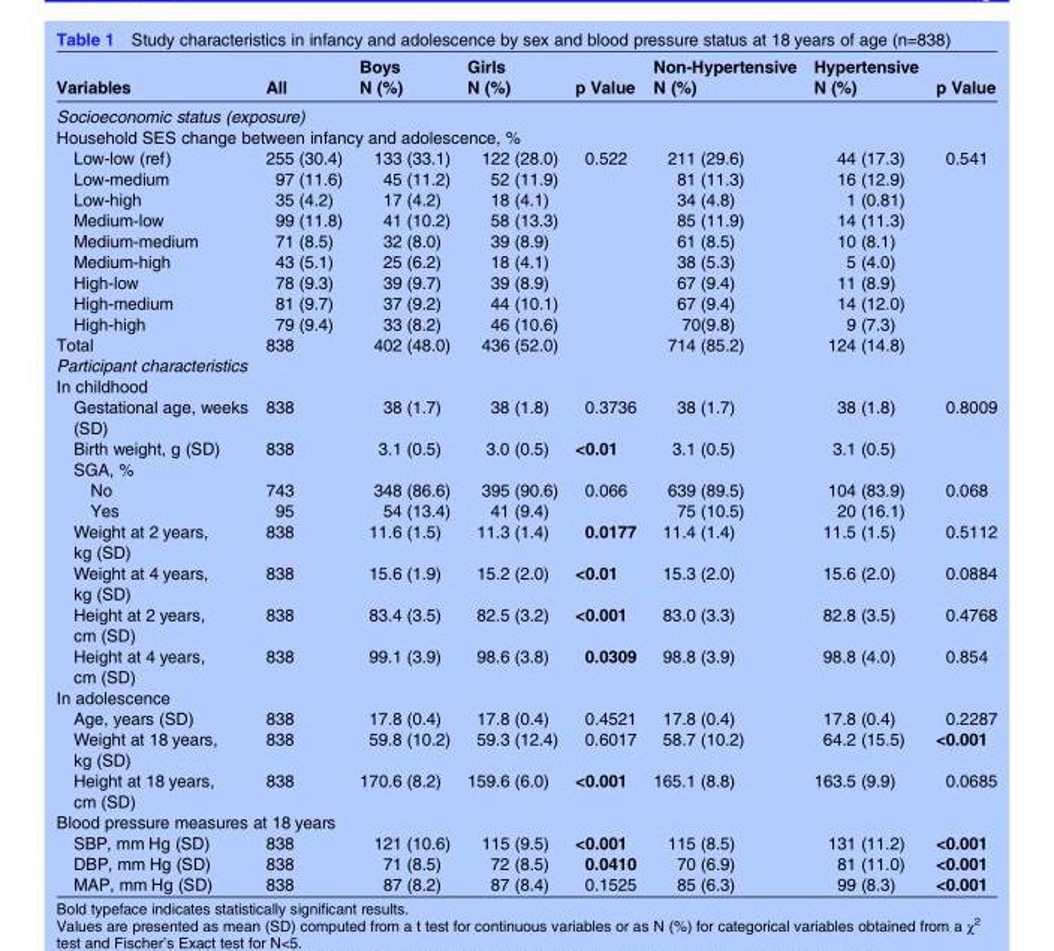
<table><thead><tr><td>Variables</td><td>All</td><td>Boys N (%)</td><td>Girls N (%)</td><td>p Value</td><td>Non-Hypertensive N (%)</td><td>Hypertensive N (%)</td><td>p Value</td></tr></thead><tbody><tr><td colspan="8">Socioeconomic status (exposure)</td></tr><tr><td colspan="8">Household SES change between infancy and adolescence, %</td></tr><tr><td>Low-low (ref)</td><td>255 (30.4)</td><td>133 (33.1)</td><td>122 (28.0)</td><td>0.522</td><td>211 (29.6)</td><td>44 (17.3)</td><td>0.541</td></tr><tr><td>Low-medium</td><td>97 (11.6)</td><td>45 (11.2)</td><td>52 (11.9)</td><td></td><td>81 (11.3)</td><td>16 (12.9)</td><td></td></tr><tr><td>Low-high</td><td>35 (4.2)</td><td>17 (4.2)</td><td>18 (4.1)</td><td></td><td>34 (4.8)</td><td>1 (0.81)</td><td></td></tr><tr><td>Medium-low</td><td>99 (11.8)</td><td>41 (10.2)</td><td>58 (13.3)</td><td></td><td>85 (11.9)</td><td>14 (11.3)</td><td></td></tr><tr><td>Medium-medium</td><td>71 (8.5)</td><td>32 (8.0)</td><td>39 (8.9)</td><td></td><td>61 (8.5)</td><td>10 (8.1)</td><td></td></tr><tr><td>Medium-high</td><td>43 (5.1)</td><td>25 (6.2)</td><td>18 (4.1)</td><td></td><td>38 (5.3)</td><td>5 (4.0)</td><td></td></tr><tr><td>High-low</td><td>78 (9.3)</td><td>39 (9.7)</td><td>39 (8.9)</td><td></td><td>67 (9.4)</td><td>11 (8.9)</td><td></td></tr><tr><td>High-medium</td><td>81 (9.7)</td><td>37 (9.2)</td><td>44 (10.1)</td><td></td><td>67 (9.4)</td><td>14 (12.0)</td><td></td></tr><tr><td>High-high</td><td>79 (9.4)</td><td>33 (8.2)</td><td>46 (10.6)</td><td></td><td>70(9.8)</td><td>9 (7.3)</td><td></td></tr><tr><td>Total</td><td>838</td><td>402 (48.0)</td><td>436 (52.0)</td><td></td><td>714 (85.2)</td><td>124 (14.8)</td><td></td></tr><tr><td colspan="8">Participant characteristics</td></tr><tr><td colspan="8">In childhood</td></tr><tr><td>Gestational age, weeks (SD)</td><td>838</td><td>38 (1.7)</td><td>38 (1.8)</td><td>0.3736</td><td>38 (1.7)</td><td>38 (1.8)</td><td>0.8009</td></tr><tr><td>Birth weight, g (SD)</td><td>838</td><td>3.1 (0.5)</td><td>3.0 (0.5)</td><td>&lt;0.01</td><td>3.1 (0.5)</td><td>3.1 (0.5)</td><td></td></tr><tr><td colspan="8">SGA, %</td></tr><tr><td>No</td><td>743</td><td>348 (86.6)</td><td>395 (90.6)</td><td>0.066</td><td>639 (89.5)</td><td>104 (83.9)</td><td>0.068</td></tr><tr><td>Yes</td><td>95</td><td>54 (13.4)</td><td>41 (9.4)</td><td></td><td>75 (10.5)</td><td>20 (16.1)</td><td></td></tr><tr><td>Weight at 2 years, kg (SD)</td><td>838</td><td>11.6 (1.5)</td><td>11.3 (1.4)</td><td>0.0177</td><td>11.4 (1.4)</td><td>11.5 (1.5)</td><td>0.5112</td></tr><tr><td>Weight at 4 years, kg (SD)</td><td>838</td><td>15.6 (1.9)</td><td>15.2 (2.0)</td><td>&lt;0.01</td><td>15.3 (2.0)</td><td>15.6 (2.0)</td><td>0.0884</td></tr><tr><td>Height at 2 years, cm (SD)</td><td>838</td><td>83.4 (3.5)</td><td>82.5 (3.2)</td><td>&lt;0.001</td><td>83.0 (3.3)</td><td>82.8 (3.5)</td><td>0.4768</td></tr><tr><td>Height at 4 years, cm (SD)</td><td>838</td><td>99.1 (3.9)</td><td>98.6 (3.8)</td><td>0.0309</td><td>98.8 (3.9)</td><td>98.8 (4.0)</td><td>0.854</td></tr><tr><td colspan="8">In adolescence</td></tr><tr><td>Age, years (SD)</td><td>838</td><td>17.8 (0.4)</td><td>17.8 (0.4)</td><td>0.4521</td><td>17.8 (0.4)</td><td>17.8 (0.4)</td><td>0.2287</td></tr><tr><td>Weight at 18 years, kg (SD)</td><td>838</td><td>59.8 (10.2)</td><td>59.3 (12.4)</td><td>0.6017</td><td>58.7 (10.2)</td><td>64.2 (15.5)</td><td>&lt;0.001</td></tr><tr><td>Height at 18 years, cm (SD)</td><td>838</td><td>170.6 (8.2)</td><td>159.6 (6.0)</td><td>&lt;0.001</td><td>165.1 (8.8)</td><td>163.5 (9.9)</td><td>0.0685</td></tr><tr><td colspan="8">Blood pressure measures at 18 years</td></tr><tr><td>SBP, mm Hg (SD)</td><td>838</td><td>121 (10.6)</td><td>115 (9.5)</td><td>&lt;0.001</td><td>115 (8.5)</td><td>131 (11.2)</td><td>&lt;0.001</td></tr><tr><td>DBP, mm Hg (SD)</td><td>838</td><td>71 (8.5)</td><td>72 (8.5)</td><td>0.0410</td><td>70 (6.9)</td><td>81 (11.0)</td><td>&lt;0.001</td></tr><tr><td>MAP, mm Hg (SD)</td><td>838</td><td>87 (8.2)</td><td>87 (8.4)</td><td>0.1525</td><td>85 (6.3)</td><td>99 (8.3)</td><td>&lt;0.001</td></tr></tbody></table>